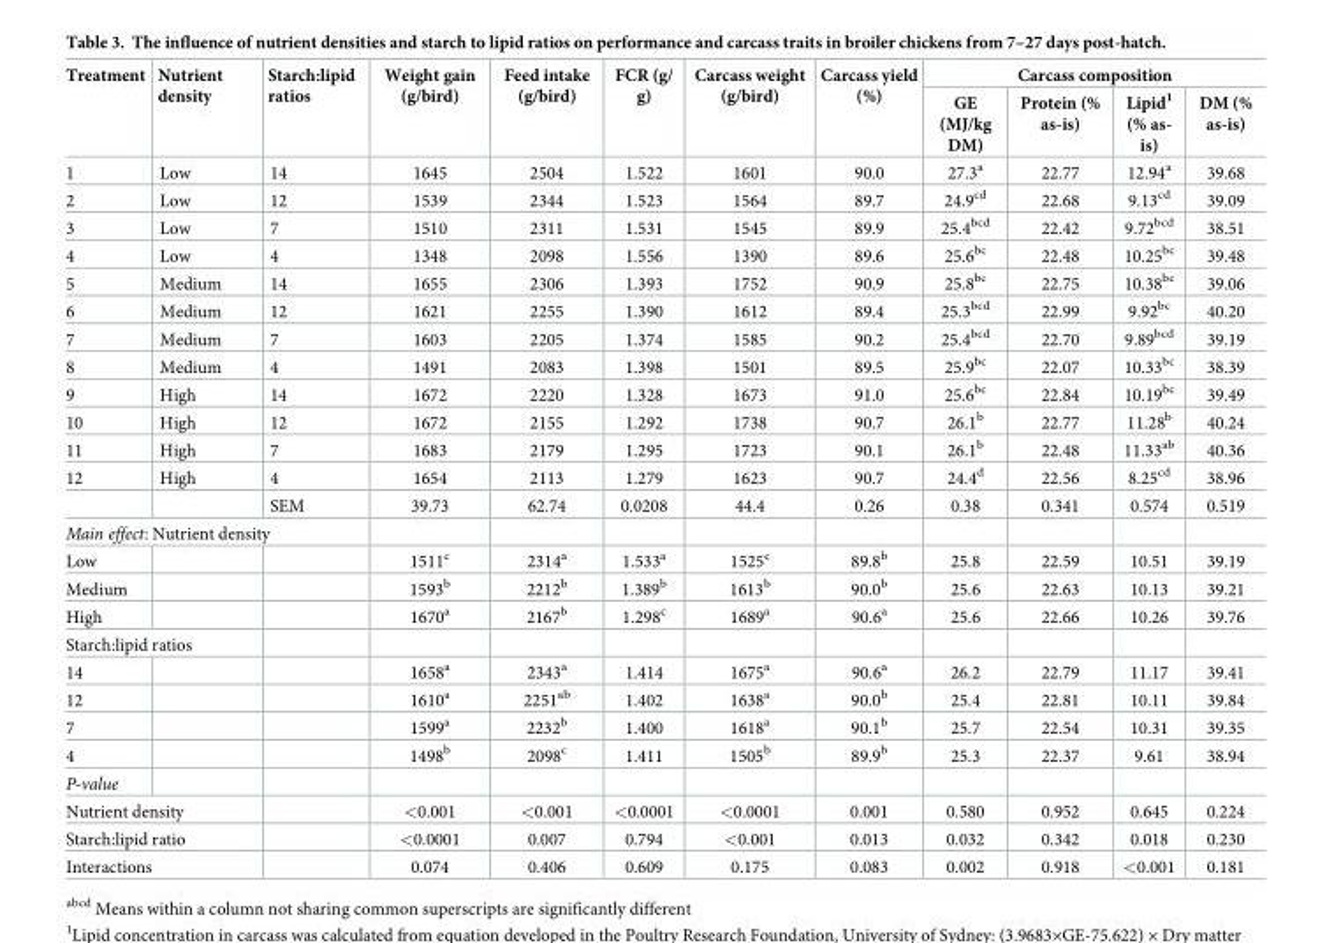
<table><thead><tr><td rowspan="2">Treatment</td><td rowspan="2">Nutrient density</td><td rowspan="2">Starch:lipid ratios</td><td rowspan="2">Weight gain (g/bird)</td><td rowspan="2">Feed intake (g/bird)</td><td rowspan="2">FCR (g/ g)</td><td rowspan="2">Carcass weight (g/bird)</td><td rowspan="2">Carcass yield (%)</td><td colspan="4">Carcass composition</td></tr><tr><td>GE (MJ/kg DM)</td><td>Protein (% as-is)</td><td>Lipid<sup>1</sup> (% as- is)</td><td>DM (% as-is)</td></tr></thead><tbody><tr><td>1</td><td>Low</td><td>14</td><td>1645</td><td>2504</td><td>1.522</td><td>1601</td><td>90.0</td><td>27.3<sup>a</sup></td><td>22.77</td><td>12.94<sup>a</sup></td><td>39.68</td></tr><tr><td>2</td><td>Low</td><td>12</td><td>1539</td><td>2344</td><td>1.523</td><td>1564</td><td>89.7</td><td>24.9<sup>cd</sup></td><td>22.68</td><td>9.13<sup>cd</sup></td><td>39.09</td></tr><tr><td>3</td><td>Low</td><td>7</td><td>1510</td><td>2311</td><td>1.531</td><td>1545</td><td>89.9</td><td>25.4<sup>bcd</sup></td><td>22.42</td><td>9.72<sup>bcd</sup></td><td>38.51</td></tr><tr><td>4</td><td>Low</td><td>4</td><td>1348</td><td>2098</td><td>1.556</td><td>1390</td><td>89.6</td><td>25.6<sup>bc</sup></td><td>22.48</td><td>10.25<sup>bc</sup></td><td>39.48</td></tr><tr><td>5</td><td>Medium</td><td>14</td><td>1655</td><td>2306</td><td>1.393</td><td>1752</td><td>90.9</td><td>25.8<sup>bc</sup></td><td>22.75</td><td>10.38<sup>bc</sup></td><td>39.06</td></tr><tr><td>6</td><td>Medium</td><td>12</td><td>1621</td><td>2255</td><td>1.390</td><td>1612</td><td>89.4</td><td>25.3<sup>bcd</sup></td><td>22.99</td><td>9.92<sup>bc</sup></td><td>40.20</td></tr><tr><td>7</td><td>Medium</td><td>7</td><td>1603</td><td>2205</td><td>1.374</td><td>1585</td><td>90.2</td><td>25.4<sup>bcd</sup></td><td>22.70</td><td>9.89<sup>bcd</sup></td><td>39.19</td></tr><tr><td>8</td><td>Medium</td><td>4</td><td>1491</td><td>2083</td><td>1.398</td><td>1501</td><td>89.5</td><td>25.9<sup>bc</sup></td><td>22.07</td><td>10.33<sup>bc</sup></td><td>38.39</td></tr><tr><td>9</td><td>High</td><td>14</td><td>1672</td><td>2220</td><td>1.328</td><td>1673</td><td>91.0</td><td>25.6<sup>bc</sup></td><td>22.84</td><td>10.19<sup>bc</sup></td><td>39.49</td></tr><tr><td>10</td><td>High</td><td>12</td><td>1672</td><td>2155</td><td>1.292</td><td>1738</td><td>90.7</td><td>26.1<sup>b</sup></td><td>22.77</td><td>11.28<sup>b</sup></td><td>40.24</td></tr><tr><td>11</td><td>High</td><td>7</td><td>1683</td><td>2179</td><td>1.295</td><td>1723</td><td>90.1</td><td>26.1<sup>b</sup></td><td>22.48</td><td>11.33<sup>ab</sup></td><td>40.36</td></tr><tr><td rowspan="2">12</td><td>High</td><td>4</td><td>1654</td><td>2113</td><td>1.279</td><td>1623</td><td>90.7</td><td>24.4<sup>d</sup></td><td>22.56</td><td>8.25<sup>cd</sup></td><td>38.96</td></tr><tr><td></td><td>SEM</td><td>39.73</td><td>62.74</td><td>0.0208</td><td>44.4</td><td>0.26</td><td>0.38</td><td>0.341</td><td>0.574</td><td>0.519</td></tr><tr><td colspan="12">Main effect: Nutrient density</td></tr><tr><td>Low</td><td></td><td></td><td>1511<sup>c</sup></td><td>2314<sup>a</sup></td><td>1.533<sup>a</sup></td><td>1525<sup>c</sup></td><td>89.8<sup>b</sup></td><td>25.8</td><td>22.59</td><td>10.51</td><td>39.19</td></tr><tr><td>Medium</td><td></td><td></td><td>1593<sup>b</sup></td><td>2212<sup>b</sup></td><td>1.389<sup>b</sup></td><td>1613<sup>b</sup></td><td>90.0<sup>b</sup></td><td>25.6</td><td>22.63</td><td>10.13</td><td>39.21</td></tr><tr><td>High</td><td></td><td></td><td>1670<sup>a</sup></td><td>2167<sup>b</sup></td><td>1.298<sup>c</sup></td><td>1689<sup>a</sup></td><td>90.6<sup>a</sup></td><td>25.6</td><td>22.66</td><td>10.26</td><td>39.76</td></tr><tr><td colspan="12">Starch:lipid ratios</td></tr><tr><td>14</td><td></td><td></td><td>1658<sup>a</sup></td><td>2343<sup>a</sup></td><td>1.414</td><td>1675<sup>a</sup></td><td>90.6<sup>a</sup></td><td>26.2</td><td>22.79</td><td>11.17</td><td>39.41</td></tr><tr><td>12</td><td></td><td></td><td>1610<sup>a</sup></td><td>2251<sup>ab</sup></td><td>1.402</td><td>1638<sup>a</sup></td><td>90.0<sup>b</sup></td><td>25.4</td><td>22.81</td><td>10.11</td><td>39.84</td></tr><tr><td>7</td><td></td><td></td><td>1599<sup>a</sup></td><td>2232<sup>b</sup></td><td>1.400</td><td>1618<sup>a</sup></td><td>90.1<sup>b</sup></td><td>25.7</td><td>22.54</td><td>10.31</td><td>39.35</td></tr><tr><td>4</td><td></td><td></td><td>1498<sup>b</sup></td><td>2098<sup>c</sup></td><td>1.411</td><td>1505<sup>b</sup></td><td>89.9<sup>b</sup></td><td>25.3</td><td>22.37</td><td>9.61</td><td>38.94</td></tr><tr><td colspan="12">P-value</td></tr><tr><td colspan="2">Nutrient density</td><td></td><td>&lt;0.001</td><td>&lt;0.001</td><td>&lt;0.0001</td><td>&lt;0.0001</td><td>0.001</td><td>0.580</td><td>0.952</td><td>0.645</td><td>0.224</td></tr><tr><td colspan="2">Starch:lipid ratio</td><td></td><td>&lt;0.0001</td><td>0.007</td><td>0.794</td><td>&lt;0.001</td><td>0.013</td><td>0.032</td><td>0.342</td><td>0.018</td><td>0.230</td></tr><tr><td colspan="2">Interactions</td><td></td><td>0.074</td><td>0.406</td><td>0.609</td><td>0.175</td><td>0.083</td><td>0.002</td><td>0.918</td><td>&lt;0.001</td><td>0.181</td></tr></tbody></table>